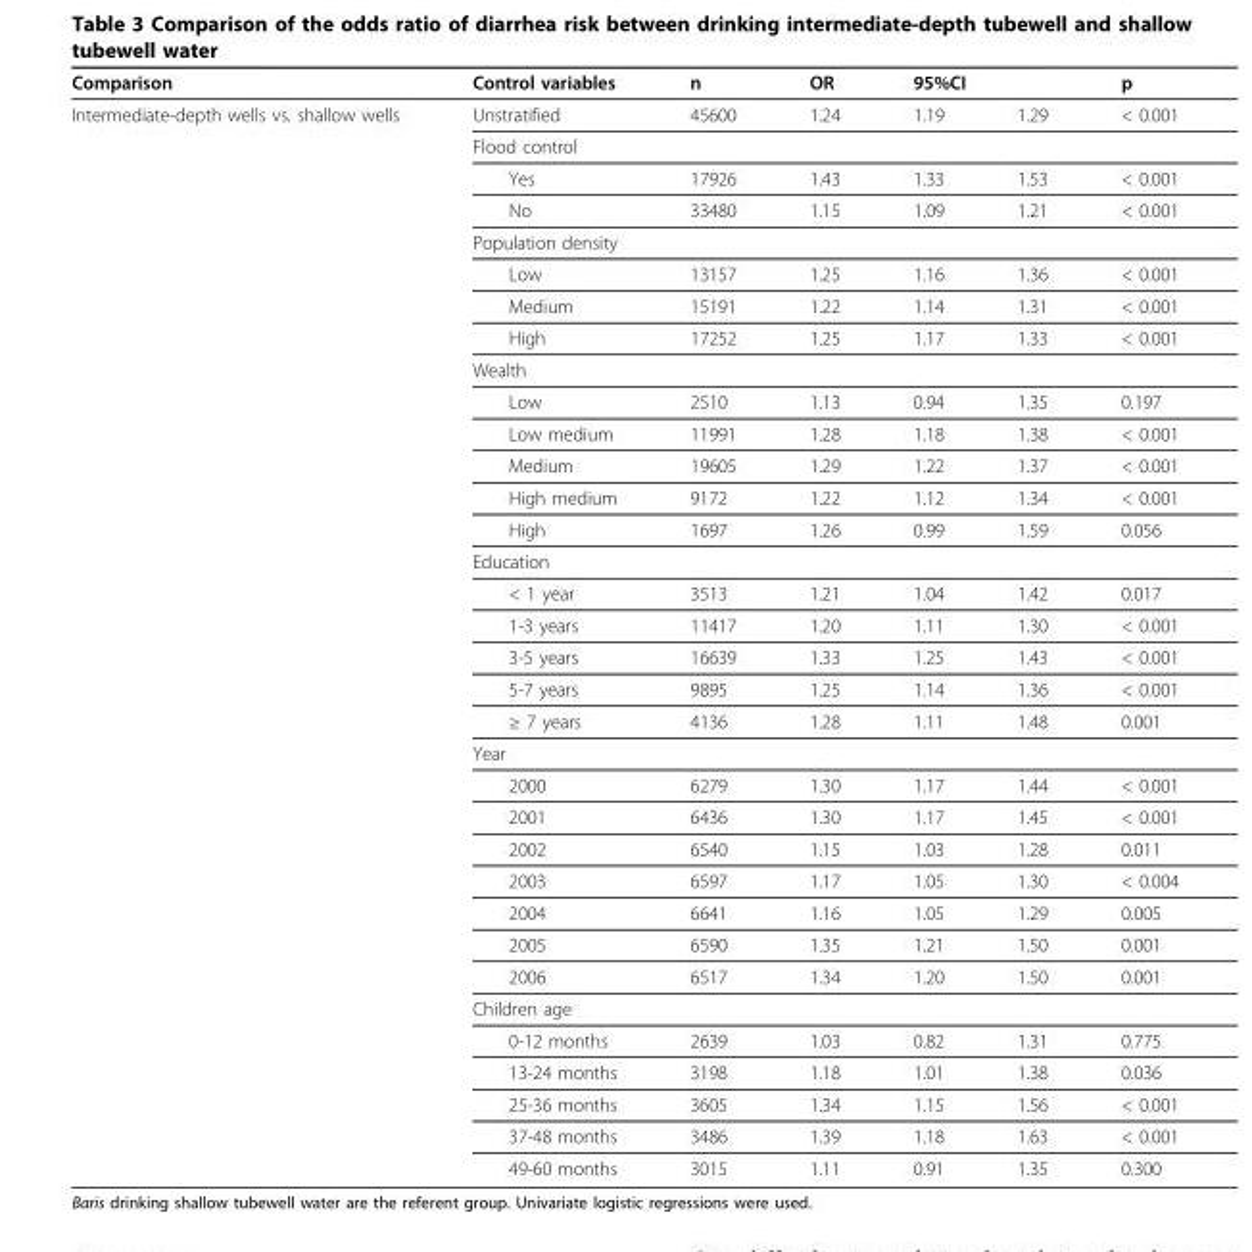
<table><thead><tr><td rowspan="2">Comparison Intermediate-depth wells vs. shallow wells</td><td rowspan="2">Control variables Unstratified</td><td rowspan="2">n 45600</td><td rowspan="2">OR 1.24</td><td colspan="2">95%CI</td><td rowspan="2">p &lt; 0.001</td></tr><tr><td>1.19</td><td>1.29</td></tr></thead><tbody><tr><td></td><td>Flood control</td><td></td><td></td><td></td><td></td><td></td></tr><tr><td></td><td>Yes</td><td>17926</td><td>1.43</td><td>1.33</td><td>1.53</td><td>&lt; 0.001</td></tr><tr><td></td><td>No</td><td>33480</td><td>1.15</td><td>1.09</td><td>1.21</td><td>&lt; 0.001</td></tr><tr><td></td><td>Population density</td><td></td><td></td><td></td><td></td><td></td></tr><tr><td></td><td>Low</td><td>13157</td><td>1.25</td><td>1.16</td><td>1.36</td><td>&lt; 0.001</td></tr><tr><td></td><td>Medium</td><td>15191</td><td>1.22</td><td>1.14</td><td>1.31</td><td>&lt; 0.001</td></tr><tr><td></td><td>High</td><td>17252</td><td>1.25</td><td>1.17</td><td>1.33</td><td>&lt; 0.001</td></tr><tr><td></td><td>Wealth</td><td></td><td></td><td></td><td></td><td></td></tr><tr><td></td><td>Low</td><td>2510</td><td>1.13</td><td>0.94</td><td>1.35</td><td>0.197</td></tr><tr><td></td><td>Low medium</td><td>11991</td><td>1.28</td><td>1.18</td><td>1.38</td><td>&lt; 0.001</td></tr><tr><td></td><td>Medium</td><td>19605</td><td>1.29</td><td>1.22</td><td>1.37</td><td>&lt; 0.001</td></tr><tr><td></td><td>High medium</td><td>9172</td><td>1.22</td><td>1.12</td><td>1.34</td><td>&lt; 0.001</td></tr><tr><td></td><td>High</td><td>1697</td><td>1.26</td><td>0.99</td><td>1.59</td><td>0.056</td></tr><tr><td></td><td>Education</td><td></td><td></td><td></td><td></td><td></td></tr><tr><td></td><td>&lt; 1 year</td><td>3513</td><td>1.21</td><td>1.04</td><td>1.42</td><td>0.017</td></tr><tr><td></td><td>1-3 years</td><td>11417</td><td>1.20</td><td>1.11</td><td>1.30</td><td>&lt; 0.001</td></tr><tr><td></td><td>3-5 years</td><td>16639</td><td>1.33</td><td>1.25</td><td>1.43</td><td>&lt; 0.001</td></tr><tr><td></td><td>5-7 years</td><td>9895</td><td>1.25</td><td>1.14</td><td>1.36</td><td>&lt; 0.001</td></tr><tr><td></td><td>≥ 7 years</td><td>4136</td><td>1.28</td><td>1.11</td><td>1.48</td><td>0.001</td></tr><tr><td></td><td>Year</td><td></td><td></td><td></td><td></td><td></td></tr><tr><td></td><td>2000</td><td>6279</td><td>1.30</td><td>1.17</td><td>1.44</td><td>&lt; 0.001</td></tr><tr><td></td><td>2001</td><td>6436</td><td>1.30</td><td>1.17</td><td>1.45</td><td>&lt; 0.001</td></tr><tr><td></td><td>2002</td><td>6540</td><td>1.15</td><td>1.03</td><td>1.28</td><td>0.011</td></tr><tr><td></td><td>2003</td><td>6597</td><td>1.17</td><td>1.05</td><td>1.30</td><td>&lt; 0.004</td></tr><tr><td></td><td>2004</td><td>6641</td><td>1.16</td><td>1.05</td><td>1.29</td><td>0.005</td></tr><tr><td></td><td>2005</td><td>6590</td><td>1.35</td><td>1.21</td><td>1.50</td><td>0.001</td></tr><tr><td></td><td>2006</td><td>6517</td><td>1.34</td><td>1.20</td><td>1.50</td><td>0.001</td></tr><tr><td></td><td>Children age</td><td></td><td></td><td></td><td></td><td></td></tr><tr><td></td><td>0-12 months</td><td>2639</td><td>1.03</td><td>0.82</td><td>1.31</td><td>0.775</td></tr><tr><td></td><td>13-24 months</td><td>3198</td><td>1.18</td><td>1.01</td><td>1.38</td><td>0.036</td></tr><tr><td></td><td>25-36 months</td><td>3605</td><td>1.34</td><td>1.15</td><td>1.56</td><td>&lt; 0.001</td></tr><tr><td></td><td>37-48 months</td><td>3486</td><td>1.39</td><td>1.18</td><td>1.63</td><td>&lt; 0.001</td></tr><tr><td></td><td>49-60 months</td><td>3015</td><td>1.11</td><td>0.91</td><td>1.35</td><td>0.300</td></tr></tbody></table>